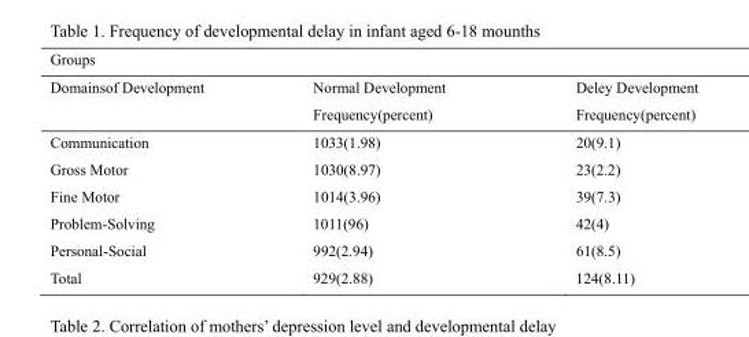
<table><thead><tr><td rowspan="2">Groups Domainsof Development</td><td rowspan="2">Normal Development</td><td rowspan="2">Deley Development</td></tr><tr></tr></thead><tbody><tr><td></td><td>Frequency(percent)</td><td>Frequency(percent)</td></tr><tr><td>Communication</td><td>1033(1.98)</td><td>20(9.1)</td></tr><tr><td>Gross Motor</td><td>1030(8.97)</td><td>23(2.2)</td></tr><tr><td>Fine Motor</td><td>1014(3.96)</td><td>39(7.3)</td></tr><tr><td>Problem-Solving</td><td>1011(96)</td><td>42(4)</td></tr><tr><td>Personal-Social</td><td>992(2.94)</td><td>61(8.5)</td></tr><tr><td>Total</td><td>929(2.88)</td><td>124(8.11)</td></tr></tbody></table>